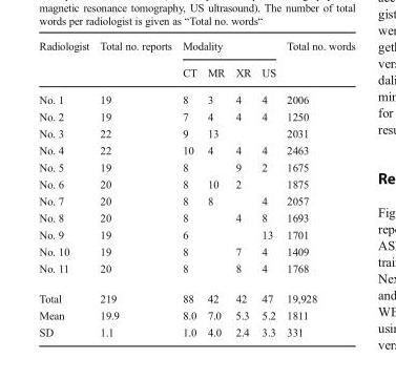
<table><thead><tr><td rowspan="2">Radiologist</td><td rowspan="2">Total no. reports</td><td colspan="4">Modality</td><td rowspan="2">Total no. words</td></tr><tr><td>CT</td><td>MR</td><td>XR</td><td>US</td></tr></thead><tbody><tr><td>No. 1</td><td>19</td><td>8</td><td>3</td><td>4</td><td>4</td><td>2006</td></tr><tr><td>No. 2</td><td>19</td><td>7</td><td>4</td><td>4</td><td>4</td><td>1250</td></tr><tr><td>No. 3</td><td>22</td><td>9</td><td>13</td><td></td><td></td><td>2031</td></tr><tr><td>No. 4</td><td>22</td><td>10</td><td>4</td><td>4</td><td>4</td><td>2463</td></tr><tr><td>No. 5</td><td>19</td><td>8</td><td></td><td>9</td><td>2</td><td>1675</td></tr><tr><td>No. 6</td><td>20</td><td>8</td><td>10</td><td>2</td><td></td><td>1875</td></tr><tr><td>No. 7</td><td>20</td><td>8</td><td>8</td><td></td><td>4</td><td>2057</td></tr><tr><td>No. 8</td><td>20</td><td>8</td><td></td><td>4</td><td>8</td><td>1693</td></tr><tr><td>No. 9</td><td>19</td><td>6</td><td></td><td></td><td>13</td><td>1701</td></tr><tr><td>No. 10</td><td>19</td><td>8</td><td></td><td>7</td><td>4</td><td>1409</td></tr><tr><td>No. 11</td><td>20</td><td>8</td><td></td><td>8</td><td>4</td><td>1768</td></tr><tr><td>Total</td><td>219</td><td>88</td><td>42</td><td>42</td><td>47</td><td>19,928</td></tr><tr><td>Mean</td><td>19.9</td><td>8.0</td><td>7.0</td><td>5.3</td><td>5.2</td><td>1811</td></tr><tr><td>SD</td><td>1.1</td><td>1.0</td><td>4.0</td><td>2.4</td><td>3.3</td><td>331</td></tr></tbody></table>